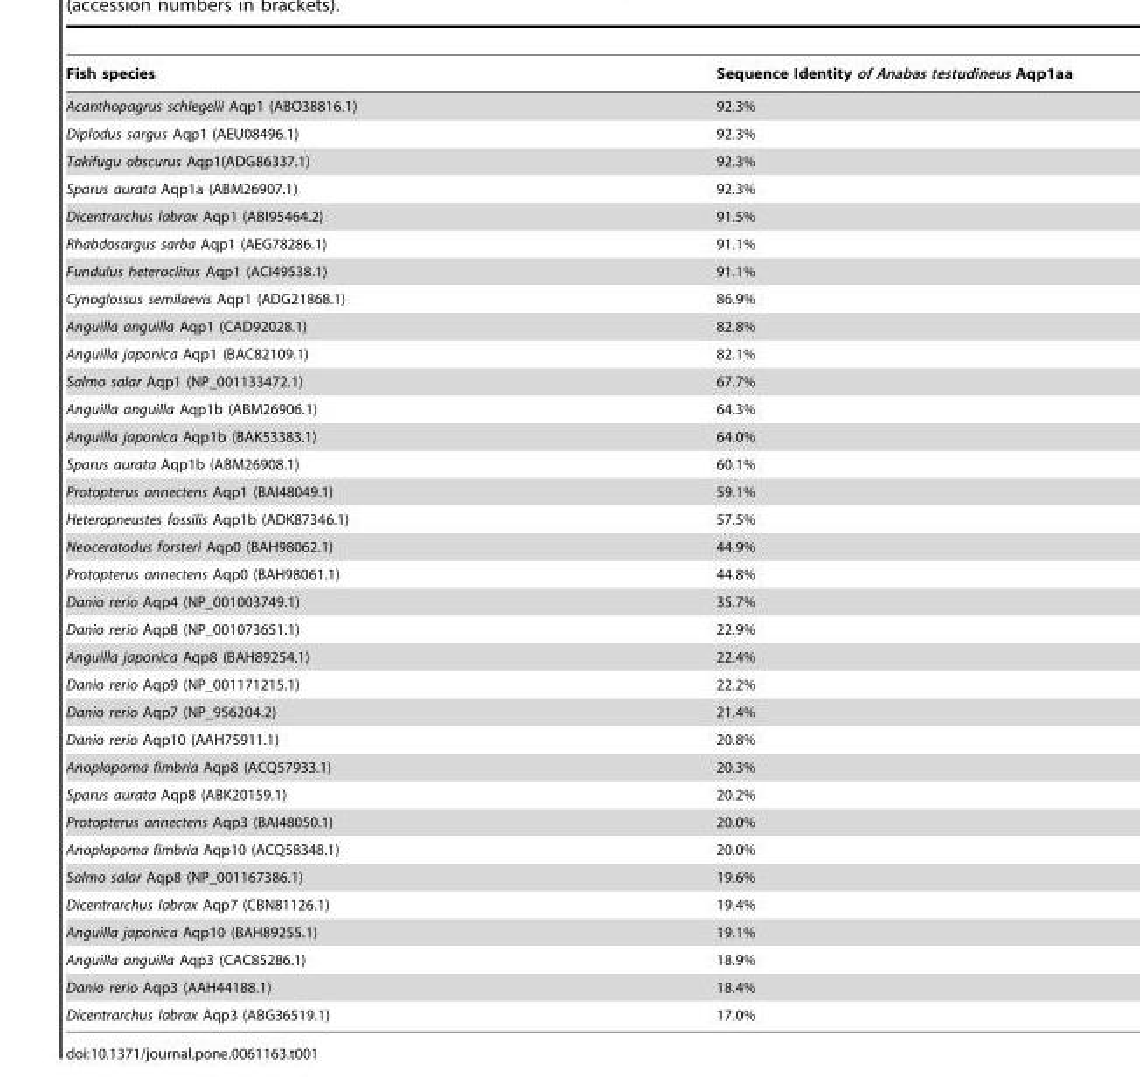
<table><thead><tr><td>Fish species</td><td>Sequence Identity of Anabas testudineus Aqp1aa</td></tr></thead><tbody><tr><td>Acanthopagrus schlegelii Aqp1 (ABO38816.1)</td><td>92.3%</td></tr><tr><td>Diplodus sargus Aqp1 (AEU08496.1)</td><td>92.3%</td></tr><tr><td>Takifugu obscurus Aqp1(ADG86337.1)</td><td>92.3%</td></tr><tr><td>Sparus aurata Aqp1a (ABM26907.1)</td><td>92.3%</td></tr><tr><td>Dicentrarchus labrax Aqp1 (ABI95464.2)</td><td>91.5%</td></tr><tr><td>Rhabdosargus sarba Aqp1 (AEG78286.1)</td><td>91.1%</td></tr><tr><td>Fundulus heteroclitus Aqp1 (ACI49538.1)</td><td>91.1%</td></tr><tr><td>Cynoglossus semilaevis Aqp1 (ADG21868.1)</td><td>86.9%</td></tr><tr><td>Anguilla anguilla Aqp1 (CAD92028.1)</td><td>82.8%</td></tr><tr><td>Anguilla japonica Aqp1 (BAC82109.1)</td><td>82.1%</td></tr><tr><td>Salmo salar Aqp1 (NP_001133472.1)</td><td>67.7%</td></tr><tr><td>Anguilla anguilla Aqp1b (ABM26906.1)</td><td>64.3%</td></tr><tr><td>Anguilla japonica Aqp1b (BAK53383.1)</td><td>64.0%</td></tr><tr><td>Sparus aurata Aqp1b (ABM26908.1)</td><td>60.1%</td></tr><tr><td>Protopterus annectens Aqp1 (BAI48049.1)</td><td>59.1%</td></tr><tr><td>Heteropneustes fossilis Aqp1b (ADK87346.1)</td><td>57.5%</td></tr><tr><td>Neoceratodus forsteri Aqp0 (BAH98062.1)</td><td>44.9%</td></tr><tr><td>Protopterus annectens Aqp0 (BAH98061.1)</td><td>44.8%</td></tr><tr><td>Danio rerio Aqp4 (NP_001003749.1)</td><td>35.7%</td></tr><tr><td>Danio rerio Aqp8 (NP_001073651.1)</td><td>22.9%</td></tr><tr><td>Anguilla japonica Aqp8 (BAH89254.1)</td><td>22.4%</td></tr><tr><td>Danio rerio Aqp9 (NP_001171215.1)</td><td>22.2%</td></tr><tr><td>Danio rerio Aqp7 (NP_956204.2)</td><td>21.4%</td></tr><tr><td>Danio rerio Aqp10 (AAH75911.1)</td><td>20.8%</td></tr><tr><td>Anoplopoma fimbria Aqp8 (ACQ57933.1)</td><td>20.3%</td></tr><tr><td>Sparus aurata Aqp8 (ABK20159.1)</td><td>20.2%</td></tr><tr><td>Protopterus annectens Aqp3 (BAI48050.1)</td><td>20.0%</td></tr><tr><td>Anoplopoma fimbria Aqp10 (ACQ58348.1)</td><td>20.0%</td></tr><tr><td>Salmo salar Aqp8 (NP_001167386.1)</td><td>19.6%</td></tr><tr><td>Dicentrarchus labrax Aqp7 (CBN81126.1)</td><td>19.4%</td></tr><tr><td>Anguilla japonica Aqp10 (BAH89255.1)</td><td>19.1%</td></tr><tr><td>Anguilla anguilla Aqp3 (CAC85286.1)</td><td>18.9%</td></tr><tr><td>Danio rerio Aqp3 (AAH44188.1)</td><td>18.4%</td></tr><tr><td>Dicentrarchus labrax Aqp3 (ABG36519.1)</td><td>17.0%</td></tr></tbody></table>